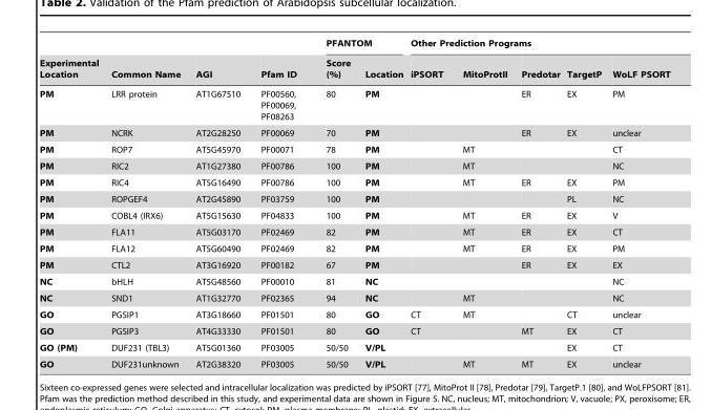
<table><thead><tr><td rowspan="2">Experimental Location</td><td rowspan="2">Common Name</td><td rowspan="2">AGI</td><td rowspan="2">Pfam ID</td><td colspan="2">PFANTOM</td><td colspan="5">Other Prediction Programs</td></tr><tr><td>Score (%)</td><td>Location</td><td>iPSORT</td><td>MitoProtII</td><td>Predotar</td><td>TargetP</td><td>WoLF PSORT</td></tr></thead><tbody><tr><td>PM</td><td>LRR protein</td><td>AT1G67510</td><td>PF00560, PF00069, PF08263</td><td>80</td><td>PM</td><td></td><td></td><td>ER</td><td>EX</td><td>PM</td></tr><tr><td>PM</td><td>NCRK</td><td>AT2G28250</td><td>PF00069</td><td>70</td><td>PM</td><td></td><td></td><td>ER</td><td>EX</td><td>unclear</td></tr><tr><td>PM</td><td>ROP7</td><td>AT5G45970</td><td>PF00071</td><td>78</td><td>PM</td><td></td><td>MT</td><td></td><td></td><td>CT</td></tr><tr><td>PM</td><td>RIC2</td><td>AT1G27380</td><td>PF00786</td><td>100</td><td>PM</td><td></td><td>MT</td><td></td><td></td><td>NC</td></tr><tr><td>PM</td><td>RIC4</td><td>AT5G16490</td><td>PF00786</td><td>100</td><td>PM</td><td></td><td>MT</td><td>ER</td><td>EX</td><td>PM</td></tr><tr><td>PM</td><td>ROPGEF4</td><td>AT2G45890</td><td>PF03759</td><td>100</td><td>PM</td><td></td><td></td><td></td><td>PL</td><td>NC</td></tr><tr><td>PM</td><td>COBL4 (IRX6)</td><td>AT5G15630</td><td>PF04833</td><td>100</td><td>PM</td><td></td><td>MT</td><td>ER</td><td>EX</td><td>V</td></tr><tr><td>PM</td><td>FLA11</td><td>AT5G03170</td><td>PF02469</td><td>82</td><td>PM</td><td></td><td>MT</td><td>ER</td><td>EX</td><td>CT</td></tr><tr><td>PM</td><td>FLA12</td><td>AT5G60490</td><td>PF02469</td><td>82</td><td>PM</td><td></td><td>MT</td><td>ER</td><td>EX</td><td>PM</td></tr><tr><td>PM</td><td>CTL2</td><td>AT3G16920</td><td>PF00182</td><td>67</td><td>PM</td><td></td><td></td><td>ER</td><td>EX</td><td>EX</td></tr><tr><td>NC</td><td>bHLH</td><td>AT5G48560</td><td>PF00010</td><td>81</td><td>NC</td><td></td><td></td><td></td><td></td><td>NC</td></tr><tr><td>NC</td><td>SND1</td><td>AT1G32770</td><td>PF02365</td><td>94</td><td>NC</td><td></td><td>MT</td><td></td><td></td><td>NC</td></tr><tr><td>GO</td><td>PGSIP1</td><td>AT3G18660</td><td>PF01501</td><td>80</td><td>GO</td><td>CT</td><td>MT</td><td></td><td>CT</td><td>unclear</td></tr><tr><td>GO</td><td>PGSIP3</td><td>AT4G33330</td><td>PF01501</td><td>80</td><td>GO</td><td>CT</td><td></td><td>MT</td><td>EX</td><td>CT</td></tr><tr><td>GO (PM)</td><td>DUF231 (TBL3)</td><td>AT5G01360</td><td>PF03005</td><td>50/50</td><td>V/PL</td><td></td><td></td><td></td><td>EX</td><td>CT</td></tr><tr><td>GO</td><td>DUF231unknown</td><td>AT2G38320</td><td>PF03005</td><td>50/50</td><td>V/PL</td><td></td><td>MT</td><td>MT</td><td>EX</td><td>unclear</td></tr></tbody></table>